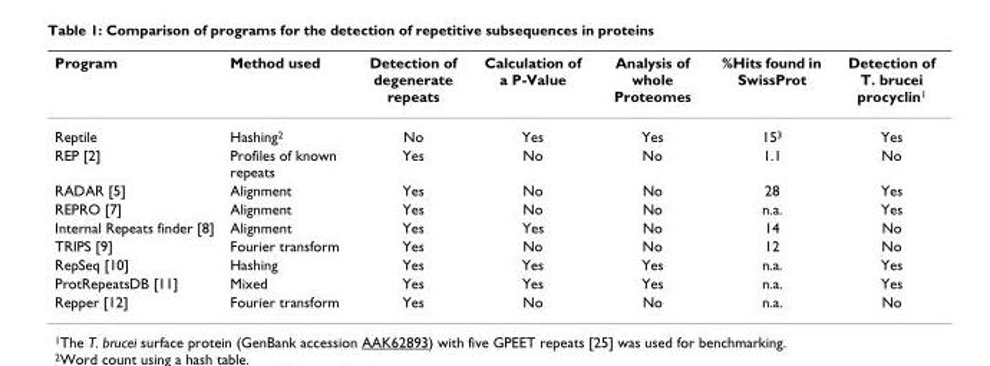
<table><thead><tr><td>Program</td><td>Method used</td><td>Detection of degenerate repeats</td><td>Calculation of a P-Value</td><td>Analysis of whole Proteomes</td><td>%Hits found in SwissProt</td><td>Detection of T. brucei procyclin<sup>1</sup></td></tr></thead><tbody><tr><td>Reptile</td><td>Hashing<sup>2</sup></td><td>No</td><td>Yes</td><td>Yes</td><td>15<sup>3</sup></td><td>Yes</td></tr><tr><td>REP [2]</td><td>Profiles of known repeats</td><td>Yes</td><td>No</td><td>No</td><td>1.1</td><td>No</td></tr><tr><td>RADAR [5]</td><td>Alignment</td><td>Yes</td><td>No</td><td>No</td><td>28</td><td>Yes</td></tr><tr><td>REPRO [7]</td><td>Alignment</td><td>Yes</td><td>No</td><td>No</td><td>n.a.</td><td>Yes</td></tr><tr><td>Internal Repeats finder [8]</td><td>Alignment</td><td>Yes</td><td>Yes</td><td>No</td><td>14</td><td>No</td></tr><tr><td>TRIPS [9]</td><td>Fourier transform</td><td>Yes</td><td>No</td><td>No</td><td>12</td><td>No</td></tr><tr><td>RepSeq [10]</td><td>Hashing</td><td>Yes</td><td>Yes</td><td>Yes</td><td>n.a.</td><td>Yes</td></tr><tr><td>ProtRepeatsDB [11]</td><td>Mixed</td><td>Yes</td><td>Yes</td><td>Yes</td><td>n.a.</td><td>Yes</td></tr><tr><td>Repper [12]</td><td>Fourier transform</td><td>Yes</td><td>No</td><td>No</td><td>n.a.</td><td>No</td></tr></tbody></table>